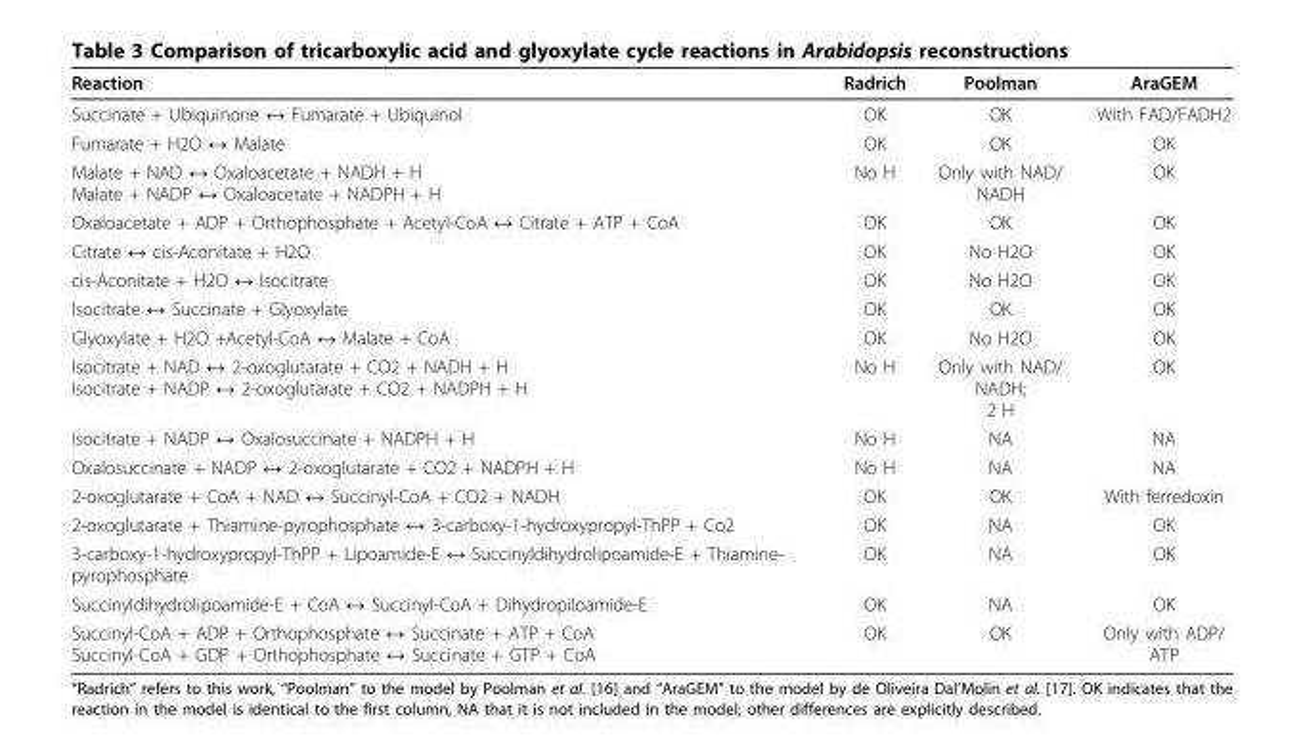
<table><thead><tr><td>Reaction</td><td>Radrich</td><td>Poolman</td><td>AraGEM</td></tr></thead><tbody><tr><td>Succinate + Ubiquinone ↔ Fumarate + Ubiquinol</td><td>OK</td><td>OK</td><td>With FAD/FADH2</td></tr><tr><td>Fumarate + H2O ↔ Malate</td><td>OK</td><td>OK</td><td>OK</td></tr><tr><td>Malate + NAD ↔ Oxaloacetate + NADH + H Malate + NADP ↔ Oxaloacetate + NADPH + H</td><td>No H</td><td>Only with NAD/ NADH</td><td>OK</td></tr><tr><td>Oxaloacetate + ADP + Orthophosphate + Acetyl-CoA ↔ Citrate + ATP + CoA</td><td>OK</td><td>OK</td><td>OK</td></tr><tr><td>Citrate ↔ cis-Aconitate + H2O</td><td>OK</td><td>No H2O</td><td>OK</td></tr><tr><td>cis-Aconitate + H2O ↔ Isocitrate</td><td>OK</td><td>No H2O</td><td>OK</td></tr><tr><td>Isocitrate ↔ Succinate + Glyoxylate</td><td>OK</td><td>OK</td><td>OK</td></tr><tr><td>Glyoxylate + H2O +Acetyl-CoA ↔ Malate + CoA</td><td>OK</td><td>No H2O</td><td>OK</td></tr><tr><td>Isocitrate + NAD ↔ 2-oxoglutarate + CO2 + NADH + H Isocitrate + NADP ↔ 2-oxoglutarate + CO2 + NADPH + H</td><td>No H</td><td>Only with NAD/ NADH; 2 H</td><td>OK</td></tr><tr><td>Isocitrate + NADP ↔ Oxalosuccinate + NADPH + H</td><td>No H</td><td>NA</td><td>NA</td></tr><tr><td>Oxalosuccinate + NADP ↔ 2-oxoglutarate + CO2 + NADPH + H</td><td>No H</td><td>NA</td><td>NA</td></tr><tr><td>2-oxoglutarate + CoA + NAD ↔ Succinyl-CoA + CO2 + NADH</td><td>OK</td><td>OK</td><td>With ferredoxin</td></tr><tr><td>2-oxoglutarate + Thiamine-pyrophosphate ↔ 3-carboxy-1-hydroxypropyl-ThPP + Co2</td><td>OK</td><td>NA</td><td>OK</td></tr><tr><td>3-carboxy-1-hydroxypropyl-ThPP + Lipoamide-E ↔ Succinyldihydrolipoamide-E + Thiamine- pyrophosphate</td><td>OK</td><td>NA</td><td>OK</td></tr><tr><td>Succinyldihydrolipoamide-E + CoA ↔ Succinyl-CoA + Dihydropiloamide-E</td><td>OK</td><td>NA</td><td>OK</td></tr><tr><td>Succinyl-CoA + ADP + Orthophosphate ↔ Succinate + ATP + CoA Succinyl-CoA + GDP + Orthophosphate ↔ Succinate + GTP + CoA</td><td>OK</td><td>OK</td><td>Only with ADP/ ATP</td></tr></tbody></table>